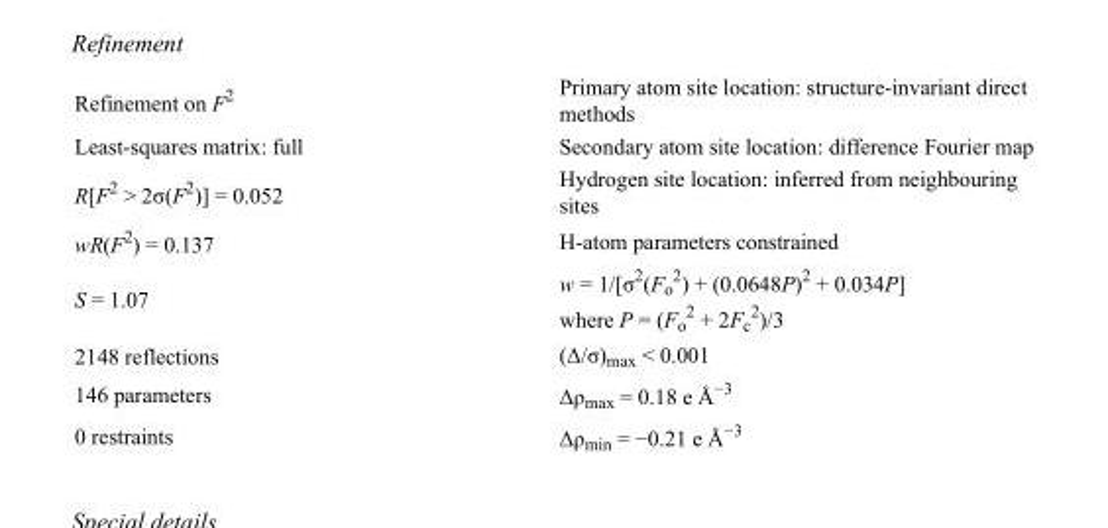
<table><tbody><tr><td>Refinement on F<sup>2</sup></td><td>Primary atom site location: structure-invariant direct methods</td></tr><tr><td>Least-squares matrix: full</td><td>Secondary atom site location: difference Fourier map</td></tr><tr><td>R[F<sup>2</sup> &gt; 2σ(F<sup>2</sup>)] = 0.052</td><td>Hydrogen site location: inferred from neighbouring sites</td></tr><tr><td>wR(F<sup>2</sup>) = 0.137</td><td>H-atom parameters constrained</td></tr><tr><td>S = 1.07</td><td>w = 1/[σ<sup>2</sup>(F<sub>o</sub> <sup>2</sup>) + (0.0648P)<sup>2</sup> + 0.034P] where P = (F<sub>o</sub> <sup>2</sup> + 2F<sub>c</sub> <sup>2</sup>)/3</td></tr><tr><td>2148 reflections</td><td>(Δ/σ)<sub>max</sub> &lt; 0.001</td></tr><tr><td>146 parameters</td><td>Δρ<sub>max</sub> = 0.18 e Å<sup>−3</sup></td></tr><tr><td>0 restraints</td><td>Δρ<sub>min</sub> = −0.21 e Å<sup>−3</sup></td></tr></tbody></table>